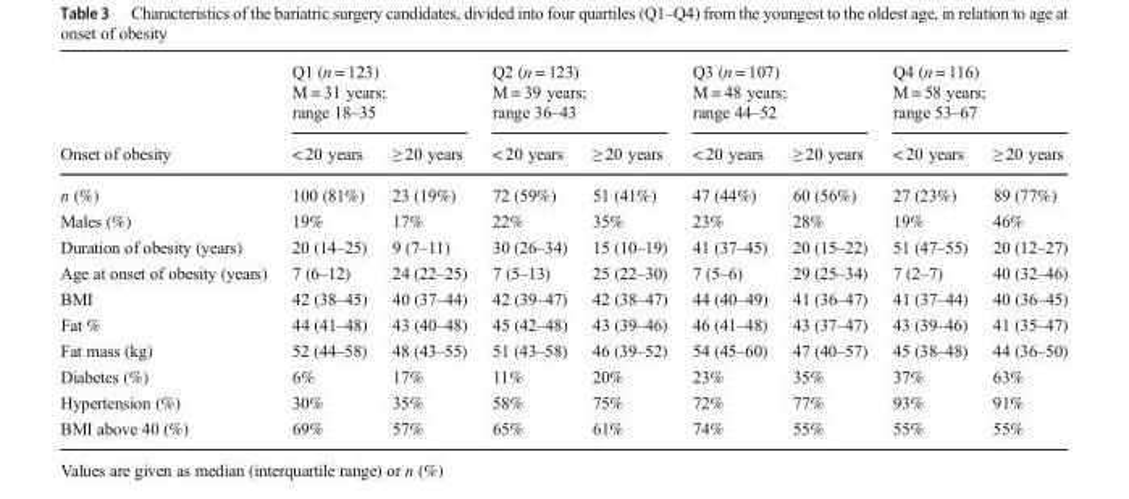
<table><thead><tr><td rowspan="2">Onset of obesity</td><td colspan="2">Q1 (n = 123) M = 31 years; range 18–35</td><td colspan="2">Q2 (n = 123) M = 39 years; range 36–43</td><td colspan="2">Q3 (n = 107) M = 48 years; range 44–52</td><td colspan="2">Q4 (n = 116) M = 58 years; range 53–67</td></tr><tr><td>&lt; 20 years</td><td>≥ 20 years</td><td>&lt; 20 years</td><td>≥ 20 years</td><td>&lt; 20 years</td><td>≥ 20 years</td><td>&lt; 20 years</td><td>≥ 20 years</td></tr></thead><tbody><tr><td>n (%)</td><td>100 (81%)</td><td>23 (19%)</td><td>72 (59%)</td><td>51 (41%)</td><td>47 (44%)</td><td>60 (56%)</td><td>27 (23%)</td><td>89 (77%)</td></tr><tr><td>Males (%)</td><td>19%</td><td>17%</td><td>22%</td><td>35%</td><td>23%</td><td>28%</td><td>19%</td><td>46%</td></tr><tr><td>Duration of obesity (years)</td><td>20 (14–25)</td><td>9 (7–11)</td><td>30 (26–34)</td><td>15 (10–19)</td><td>41 (37–45)</td><td>20 (15–22)</td><td>51 (47–55)</td><td>20 (12–27)</td></tr><tr><td>Age at onset of obesity (years)</td><td>7 (6–12)</td><td>24 (22–25)</td><td>7 (5–13)</td><td>25 (22–30)</td><td>7 (5–6)</td><td>29 (25–34)</td><td>7 (2–7)</td><td>40 (32–46)</td></tr><tr><td>BMI</td><td>42 (38–45)</td><td>40 (37–44)</td><td>42 (39–47)</td><td>42 (38–47)</td><td>44 (40–49)</td><td>41 (36–47)</td><td>41 (37–44)</td><td>40 (36–45)</td></tr><tr><td>Fat %</td><td>44 (41–48)</td><td>43 (40–48)</td><td>45 (42–48)</td><td>43 (39–46)</td><td>46 (41–48)</td><td>43 (37–47)</td><td>43 (39–46)</td><td>41 (35–47)</td></tr><tr><td>Fat mass (kg)</td><td>52 (44–58)</td><td>48 (43–55)</td><td>51 (43–58)</td><td>46 (39–52)</td><td>54 (45–60)</td><td>47 (40–57)</td><td>45 (38–48)</td><td>44 (36–50)</td></tr><tr><td>Diabetes (%)</td><td>6%</td><td>17%</td><td>11%</td><td>20%</td><td>23%</td><td>35%</td><td>37%</td><td>63%</td></tr><tr><td>Hypertension (%)</td><td>30%</td><td>35%</td><td>58%</td><td>75%</td><td>72%</td><td>77%</td><td>93%</td><td>91%</td></tr><tr><td>BMI above 40 (%)</td><td>69%</td><td>57%</td><td>65%</td><td>61%</td><td>74%</td><td>55%</td><td>55%</td><td>55%</td></tr></tbody></table>